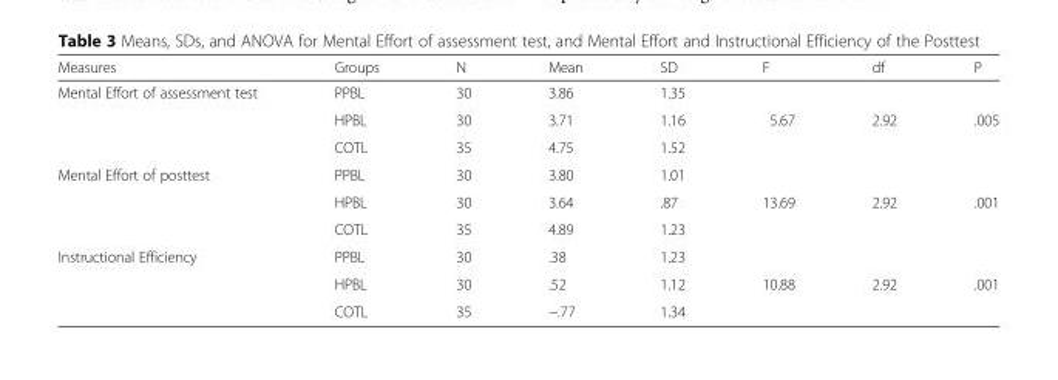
<table><thead><tr><td>Measures</td><td>Groups</td><td>N</td><td>Mean</td><td>SD</td><td>F</td><td>df</td><td>P</td></tr></thead><tbody><tr><td rowspan="3">Mental Effort of assessment test</td><td>PPBL</td><td>30</td><td>3.86</td><td>1.35</td><td></td><td></td><td></td></tr><tr><td>HPBL</td><td>30</td><td>3.71</td><td>1.16</td><td>5.67</td><td>2.92</td><td>.005</td></tr><tr><td>COTL</td><td>35</td><td>4.75</td><td>1.52</td><td></td><td></td><td></td></tr><tr><td rowspan="3">Mental Effort of posttest</td><td>PPBL</td><td>30</td><td>3.80</td><td>1.01</td><td></td><td></td><td></td></tr><tr><td>HPBL</td><td>30</td><td>3.64</td><td>.87</td><td>13.69</td><td>2.92</td><td>.001</td></tr><tr><td>COTL</td><td>35</td><td>4.89</td><td>1.23</td><td></td><td></td><td></td></tr><tr><td rowspan="3">Instructional Efficiency</td><td>PPBL</td><td>30</td><td>.38</td><td>1.23</td><td></td><td></td><td></td></tr><tr><td>HPBL</td><td>30</td><td>.52</td><td>1.12</td><td>10.88</td><td>2.92</td><td>.001</td></tr><tr><td>COTL</td><td>35</td><td>−.77</td><td>1.34</td><td></td><td></td><td></td></tr></tbody></table>